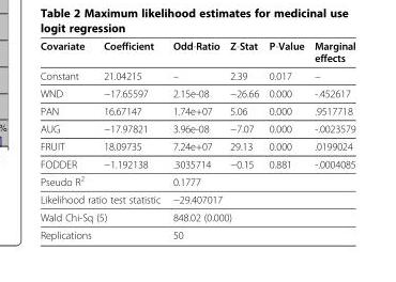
<table><thead><tr><td>Covariate</td><td>Coefficient</td><td>Odd-Ratio</td><td>Z-Stat</td><td>P-Value</td><td>Marginal effects</td></tr></thead><tbody><tr><td>Constant</td><td>21.04215</td><td>–</td><td>2.39</td><td>0.017</td><td>–</td></tr><tr><td>WND</td><td>−17.65597</td><td>2.15e-08</td><td>−26.66</td><td>0.000</td><td>-.452617</td></tr><tr><td>PAN</td><td>16.67147</td><td>1.74e+07</td><td>5.06</td><td>0.000</td><td>.9517718</td></tr><tr><td>AUG</td><td>−17.97821</td><td>3.96e-08</td><td>−7.07</td><td>0.000</td><td>-.0023579</td></tr><tr><td>FRUIT</td><td>18.09735</td><td>7.24e+07</td><td>29.13</td><td>0.000</td><td>.0199024</td></tr><tr><td>FODDER</td><td>−1.192138</td><td>.3035714</td><td>−0.15</td><td>0.881</td><td>-.0004085</td></tr><tr><td colspan="2">Pseudo R<sup>2</sup></td><td colspan="4">0.1777</td></tr><tr><td colspan="2">Likelihood ratio test statistic</td><td colspan="4">−29.407017</td></tr><tr><td colspan="2">Wald Chi-Sq (5)</td><td colspan="4">848.02 (0.000)</td></tr><tr><td colspan="2">Replications</td><td colspan="4">50</td></tr></tbody></table>